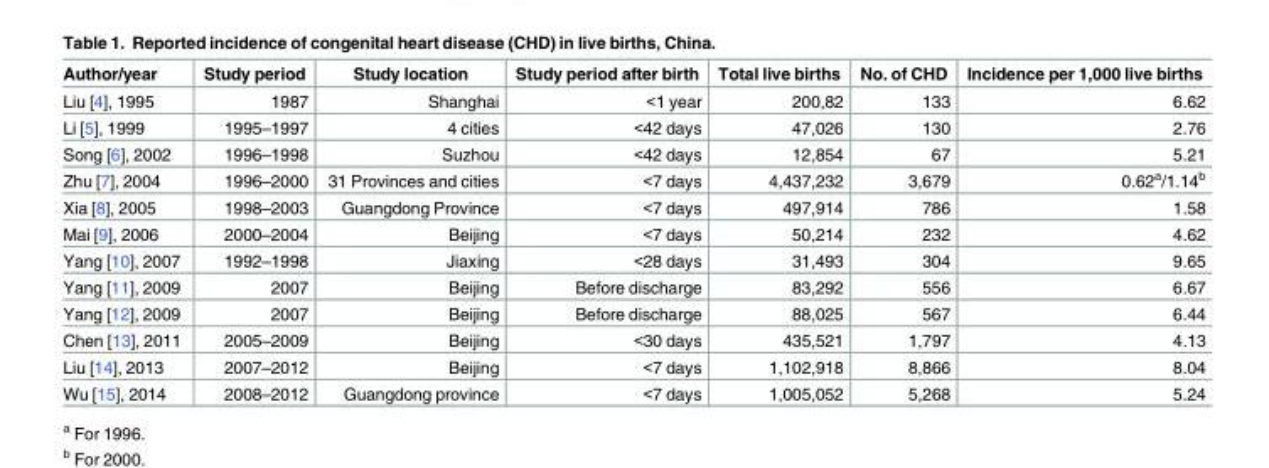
<table><thead><tr><td>Author/year</td><td>Study period</td><td>Study location</td><td>Study period after birth</td><td>Total live births</td><td>No. of CHD</td><td>Incidence per 1,000 live births</td></tr></thead><tbody><tr><td>Liu [4], 1995</td><td>1987</td><td>Shanghai</td><td>&lt;1 year</td><td>200,82</td><td>133</td><td>6.62</td></tr><tr><td>Li [5], 1999</td><td>1995–1997</td><td>4 cities</td><td>&lt;42 days</td><td>47,026</td><td>130</td><td>2.76</td></tr><tr><td>Song [6], 2002</td><td>1996–1998</td><td>Suzhou</td><td>&lt;42 days</td><td>12,854</td><td>67</td><td>5.21</td></tr><tr><td>Zhu [7], 2004</td><td>1996–2000</td><td>31 Provinces and cities</td><td>&lt;7 days</td><td>4,437,232</td><td>3,679</td><td>0.62<sup>a</sup>/1.14<sup>b</sup></td></tr><tr><td>Xia [8], 2005</td><td>1998–2003</td><td>Guangdong Province</td><td>&lt;7 days</td><td>497,914</td><td>786</td><td>1.58</td></tr><tr><td>Mai [9], 2006</td><td>2000–2004</td><td>Beijing</td><td>&lt;7 days</td><td>50,214</td><td>232</td><td>4.62</td></tr><tr><td>Yang [10], 2007</td><td>1992–1998</td><td>Jiaxing</td><td>&lt;28 days</td><td>31,493</td><td>304</td><td>9.65</td></tr><tr><td>Yang [11], 2009</td><td>2007</td><td>Beijing</td><td>Before discharge</td><td>83,292</td><td>556</td><td>6.67</td></tr><tr><td>Yang [12], 2009</td><td>2007</td><td>Beijing</td><td>Before discharge</td><td>88,025</td><td>567</td><td>6.44</td></tr><tr><td>Chen [13], 2011</td><td>2005–2009</td><td>Beijing</td><td>&lt;30 days</td><td>435,521</td><td>1,797</td><td>4.13</td></tr><tr><td>Liu [14], 2013</td><td>2007–2012</td><td>Beijing</td><td>&lt;7 days</td><td>1,102,918</td><td>8,866</td><td>8.04</td></tr><tr><td>Wu [15], 2014</td><td>2008–2012</td><td>Guangdong province</td><td>&lt;7 days</td><td>1,005,052</td><td>5,268</td><td>5.24</td></tr></tbody></table>